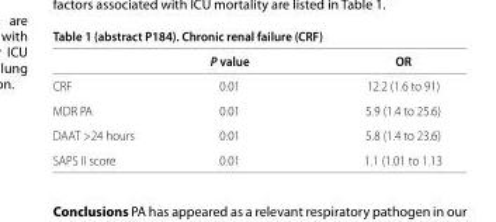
<table><thead><tr><td></td><td>P value</td><td>OR</td></tr></thead><tbody><tr><td>CRF</td><td>0.01</td><td>12.2 (1.6 to 91)</td></tr><tr><td>MDR PA</td><td>0.01</td><td>5.9 (1.4 to 25.6)</td></tr><tr><td>DAAT &gt;24 hours</td><td>0.01</td><td>5.8 (1.4 to 23.6)</td></tr><tr><td>SAPS II score</td><td>0.01</td><td>1.1 (1.01 to 1.13</td></tr></tbody></table>